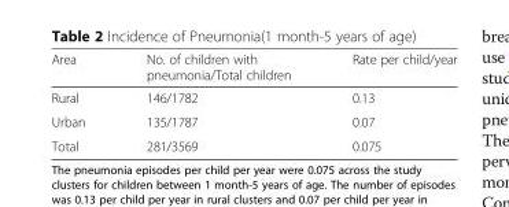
<table><thead><tr><td>Area</td><td>No. of children with pneumonia/Total children</td><td>Rate per child/year</td></tr></thead><tbody><tr><td>Rural</td><td>146/1782</td><td>0.13</td></tr><tr><td>Urban</td><td>135/1787</td><td>0.07</td></tr><tr><td>Total</td><td>281/3569</td><td>0.075</td></tr></tbody></table>